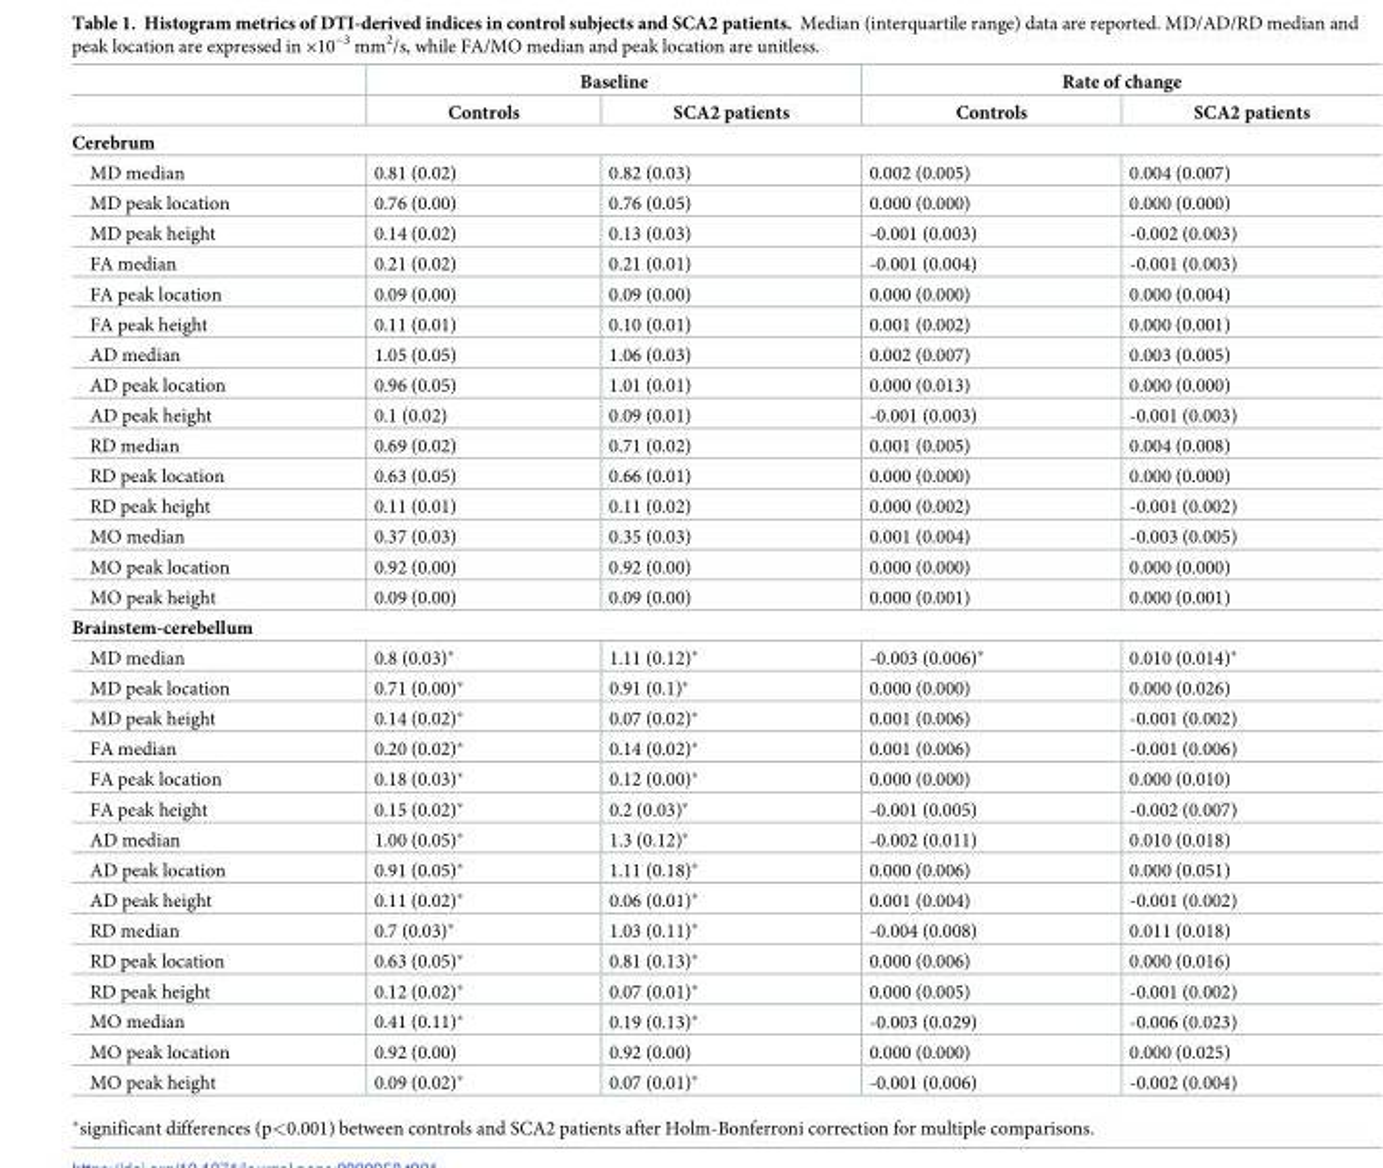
<table><thead><tr><td rowspan="2"></td><td colspan="2">Baseline</td><td colspan="2">Rate of change</td></tr><tr><td>Controls</td><td>SCA2 patients</td><td>Controls</td><td>SCA2 patients</td></tr></thead><tbody><tr><td colspan="5">Cerebrum</td></tr><tr><td>MD median</td><td>0.81 (0.02)</td><td>0.82 (0.03)</td><td>0.002 (0.005)</td><td>0.004 (0.007)</td></tr><tr><td>MD peak location</td><td>0.76 (0.00)</td><td>0.76 (0.05)</td><td>0.000 (0.000)</td><td>0.000 (0.000)</td></tr><tr><td>MD peak height</td><td>0.14 (0.02)</td><td>0.13 (0.03)</td><td>-0.001 (0.003)</td><td>-0.002 (0.003)</td></tr><tr><td>FA median</td><td>0.21 (0.02)</td><td>0.21 (0.01)</td><td>-0.001 (0.004)</td><td>-0.001 (0.003)</td></tr><tr><td>FA peak location</td><td>0.09 (0.00)</td><td>0.09 (0.00)</td><td>0.000 (0.000)</td><td>0.000 (0.004)</td></tr><tr><td>FA peak height</td><td>0.11 (0.01)</td><td>0.10 (0.01)</td><td>0.001 (0.002)</td><td>0.000 (0.001)</td></tr><tr><td>AD median</td><td>1.05 (0.05)</td><td>1.06 (0.03)</td><td>0.002 (0.007)</td><td>0.003 (0.005)</td></tr><tr><td>AD peak location</td><td>0.96 (0.05)</td><td>1.01 (0.01)</td><td>0.000 (0.013)</td><td>0.000 (0.000)</td></tr><tr><td>AD peak height</td><td>0.1 (0.02)</td><td>0.09 (0.01)</td><td>-0.001 (0.003)</td><td>-0.001 (0.003)</td></tr><tr><td>RD median</td><td>0.69 (0.02)</td><td>0.71 (0.02)</td><td>0.001 (0.005)</td><td>0.004 (0.008)</td></tr><tr><td>RD peak location</td><td>0.63 (0.05)</td><td>0.66 (0.01)</td><td>0.000 (0.000)</td><td>0.000 (0.000)</td></tr><tr><td>RD peak height</td><td>0.11 (0.01)</td><td>0.11 (0.02)</td><td>0.000 (0.002)</td><td>-0.001 (0.002)</td></tr><tr><td>MO median</td><td>0.37 (0.03)</td><td>0.35 (0.03)</td><td>0.001 (0.004)</td><td>-0.003 (0.005)</td></tr><tr><td>MO peak location</td><td>0.92 (0.00)</td><td>0.92 (0.00)</td><td>0.000 (0.000)</td><td>0.000 (0.000)</td></tr><tr><td>MO peak height</td><td>0.09 (0.00)</td><td>0.09 (0.00)</td><td>0.000 (0.001)</td><td>0.000 (0.001)</td></tr><tr><td colspan="5">Brainstem-cerebellum</td></tr><tr><td>MD median</td><td>0.8 (0.03)*</td><td>1.11 (0.12)*</td><td>-0.003 (0.006)*</td><td>0.010 (0.014)*</td></tr><tr><td>MD peak location</td><td>0.71 (0.00)*</td><td>0.91 (0.1)*</td><td>0.000 (0.000)</td><td>0.000 (0.026)</td></tr><tr><td>MD peak height</td><td>0.14 (0.02)*</td><td>0.07 (0.02)*</td><td>0.001 (0.006)</td><td>-0.001 (0.002)</td></tr><tr><td>FA median</td><td>0.20 (0.02)*</td><td>0.14 (0.02)*</td><td>0.001 (0.006)</td><td>-0.001 (0.006)</td></tr><tr><td>FA peak location</td><td>0.18 (0.03)*</td><td>0.12 (0.00)*</td><td>0.000 (0.000)</td><td>0.000 (0.010)</td></tr><tr><td>FA peak height</td><td>0.15 (0.02)*</td><td>0.2 (0.03)*</td><td>-0.001 (0.005)</td><td>-0.002 (0.007)</td></tr><tr><td>AD median</td><td>1.00 (0.05)*</td><td>1.3 (0.12)*</td><td>-0.002 (0.011)</td><td>0.010 (0.018)</td></tr><tr><td>AD peak location</td><td>0.91 (0.05)*</td><td>1.11 (0.18)*</td><td>0.000 (0.006)</td><td>0.000 (0.051)</td></tr><tr><td>AD peak height</td><td>0.11 (0.02)*</td><td>0.06 (0.01)*</td><td>0.001 (0.004)</td><td>-0.001 (0.002)</td></tr><tr><td>RD median</td><td>0.7 (0.03)*</td><td>1.03 (0.11)*</td><td>-0.004 (0.008)</td><td>0.011 (0.018)</td></tr><tr><td>RD peak location</td><td>0.63 (0.05)*</td><td>0.81 (0.13)*</td><td>0.000 (0.006)</td><td>0.000 (0.016)</td></tr><tr><td>RD peak height</td><td>0.12 (0.02)*</td><td>0.07 (0.01)*</td><td>0.000 (0.005)</td><td>-0.001 (0.002)</td></tr><tr><td>MO median</td><td>0.41 (0.11)*</td><td>0.19 (0.13)*</td><td>-0.003 (0.029)</td><td>-0.006 (0.023)</td></tr><tr><td>MO peak location</td><td>0.92 (0.00)</td><td>0.92 (0.00)</td><td>0.000 (0.000)</td><td>0.000 (0.025)</td></tr><tr><td>MO peak height</td><td>0.09 (0.02)*</td><td>0.07 (0.01)*</td><td>-0.001 (0.006)</td><td>-0.002 (0.004)</td></tr></tbody></table>